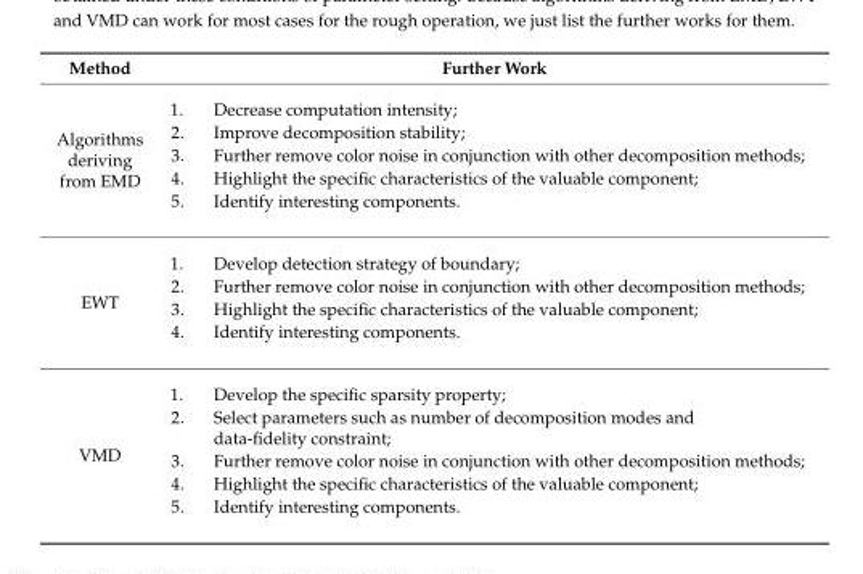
<table><thead><tr><td>Method</td><td>Further Work</td></tr></thead><tbody><tr><td>Algorithms deriving from EMD</td><td>1. Decrease computation intensity; 2. Improve decomposition stability; 3. Further remove color noise in conjunction with other decomposition methods; 4. Highlight the specific characteristics of the valuable component; 5. Identify interesting components.</td></tr><tr><td>EWT</td><td>1. Develop detection strategy of boundary; 2. Further remove color noise in conjunction with other decomposition methods; 3. Highlight the specific characteristics of the valuable component; 4. Identify interesting components.</td></tr><tr><td>VMD</td><td>1. Develop the specific sparsity property; 2. Select parameters such as number of decomposition modes and data-fidelity constraint; 3. Further remove color noise in conjunction with other decomposition methods; 4. Highlight the specific characteristics of the valuable component; 5. Identify interesting components.</td></tr></tbody></table>